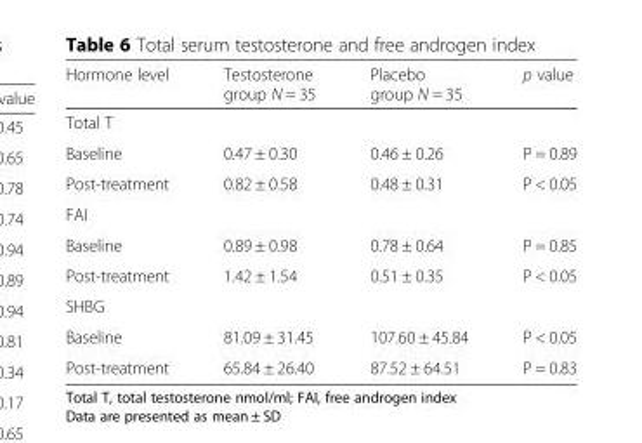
<table><thead><tr><td>Hormone level</td><td>Testosterone group N = 35</td><td>Placebo group N = 35</td><td>p value</td></tr></thead><tbody><tr><td colspan="4">Total T</td></tr><tr><td>Baseline</td><td>0.47 ± 0.30</td><td>0.46 ± 0.26</td><td>P = 0.89</td></tr><tr><td>Post-treatment</td><td>0.82 ± 0.58</td><td>0.48 ± 0.31</td><td>P &lt; 0.05</td></tr><tr><td colspan="4">FAI</td></tr><tr><td>Baseline</td><td>0.89 ± 0.98</td><td>0.78 ± 0.64</td><td>P = 0.85</td></tr><tr><td>Post-treatment</td><td>1.42 ± 1.54</td><td>0.51 ± 0.35</td><td>P &lt; 0.05</td></tr><tr><td colspan="4">SHBG</td></tr><tr><td>Baseline</td><td>81.09 ± 31.45</td><td>107.60 ± 45.84</td><td>P &lt; 0.05</td></tr><tr><td>Post-treatment</td><td>65.84 ± 26.40</td><td>87.52 ± 64.51</td><td>P = 0.83</td></tr></tbody></table>